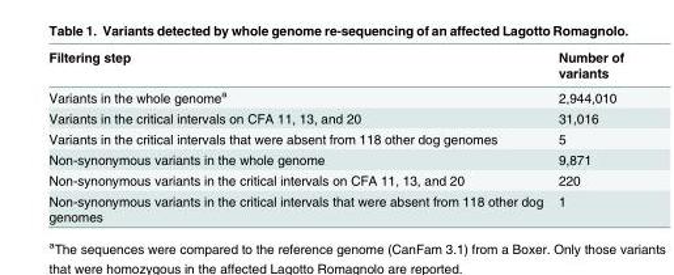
<table><thead><tr><td>Filtering step</td><td>Number of variants</td></tr></thead><tbody><tr><td>Variants in the whole genome<sup>a</sup></td><td>2,944,010</td></tr><tr><td>Variants in the critical intervals on CFA 11, 13, and 20</td><td>31,016</td></tr><tr><td>Variants in the critical intervals that were absent from 118 other dog genomes</td><td>5</td></tr><tr><td>Non-synonymous variants in the whole genome</td><td>9,871</td></tr><tr><td>Non-synonymous variants in the critical intervals on CFA 11, 13, and 20</td><td>220</td></tr><tr><td>Non-synonymous variants in the critical intervals that were absent from 118 other dog genomes</td><td>1</td></tr></tbody></table>